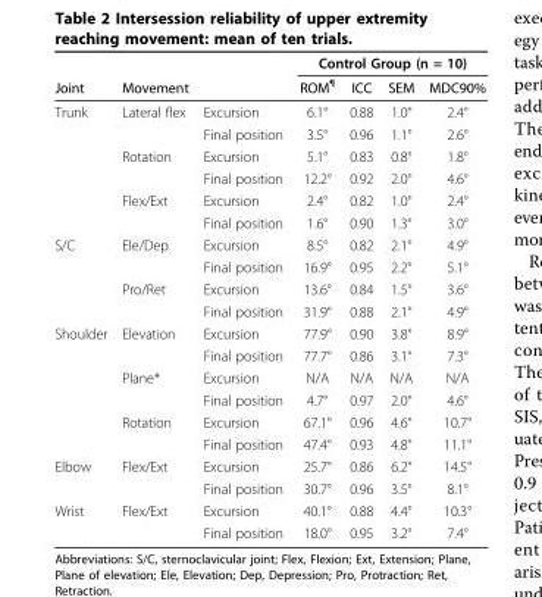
<table><thead><tr><td rowspan="2">Joint</td><td rowspan="2">Movement</td><td rowspan="2"></td><td colspan="4">Control Group (n = 10)</td></tr><tr><td>ROM<sup>¶</sup></td><td>ICC</td><td>SEM</td><td>MDC90%</td></tr></thead><tbody><tr><td rowspan="6">Trunk</td><td>Lateral flex</td><td>Excursion</td><td>6.1°</td><td>0.88</td><td>1.0°</td><td>2.4°</td></tr><tr><td></td><td>Final position</td><td>3.5°</td><td>0.96</td><td>1.1°</td><td>2.6°</td></tr><tr><td>Rotation</td><td>Excursion</td><td>5.1°</td><td>0.83</td><td>0.8°</td><td>1.8°</td></tr><tr><td></td><td>Final position</td><td>12.2°</td><td>0.92</td><td>2.0°</td><td>4.6°</td></tr><tr><td>Flex/Ext</td><td>Excursion</td><td>2.4°</td><td>0.82</td><td>1.0°</td><td>2.4°</td></tr><tr><td></td><td>Final position</td><td>1.6°</td><td>0.90</td><td>1.3°</td><td>3.0°</td></tr><tr><td rowspan="4">S/C</td><td>Ele/Dep</td><td>Excursion</td><td>8.5°</td><td>0.82</td><td>2.1°</td><td>4.9°</td></tr><tr><td></td><td>Final position</td><td>16.9°</td><td>0.95</td><td>2.2°</td><td>5.1°</td></tr><tr><td>Pro/Ret</td><td>Excursion</td><td>13.6°</td><td>0.84</td><td>1.5°</td><td>3.6°</td></tr><tr><td></td><td>Final position</td><td>31.9°</td><td>0.88</td><td>2.1°</td><td>4.9°</td></tr><tr><td rowspan="6">Shoulder</td><td>Elevation</td><td>Excursion</td><td>77.9°</td><td>0.90</td><td>3.8°</td><td>8.9°</td></tr><tr><td></td><td>Final position</td><td>77.7°</td><td>0.86</td><td>3.1°</td><td>7.3°</td></tr><tr><td>Plane*</td><td>Excursion</td><td>N/A</td><td>N/A</td><td>N/A</td><td>N/A</td></tr><tr><td></td><td>Final position</td><td>4.7°</td><td>0.97</td><td>2.0°</td><td>4.6°</td></tr><tr><td>Rotation</td><td>Excursion</td><td>67.1°</td><td>0.96</td><td>4.6°</td><td>10.7°</td></tr><tr><td></td><td>Final position</td><td>47.4°</td><td>0.93</td><td>4.8°</td><td>11.1°</td></tr><tr><td rowspan="2">Elbow</td><td>Flex/Ext</td><td>Excursion</td><td>25.7°</td><td>0.86</td><td>6.2°</td><td>14.5°</td></tr><tr><td></td><td>Final position</td><td>30.7°</td><td>0.96</td><td>3.5°</td><td>8.1°</td></tr><tr><td rowspan="2">Wrist</td><td>Flex/Ext</td><td>Excursion</td><td>40.1°</td><td>0.88</td><td>4.4°</td><td>10.3°</td></tr><tr><td></td><td>Final position</td><td>18.0°</td><td>0.95</td><td>3.2°</td><td>7.4°</td></tr></tbody></table>